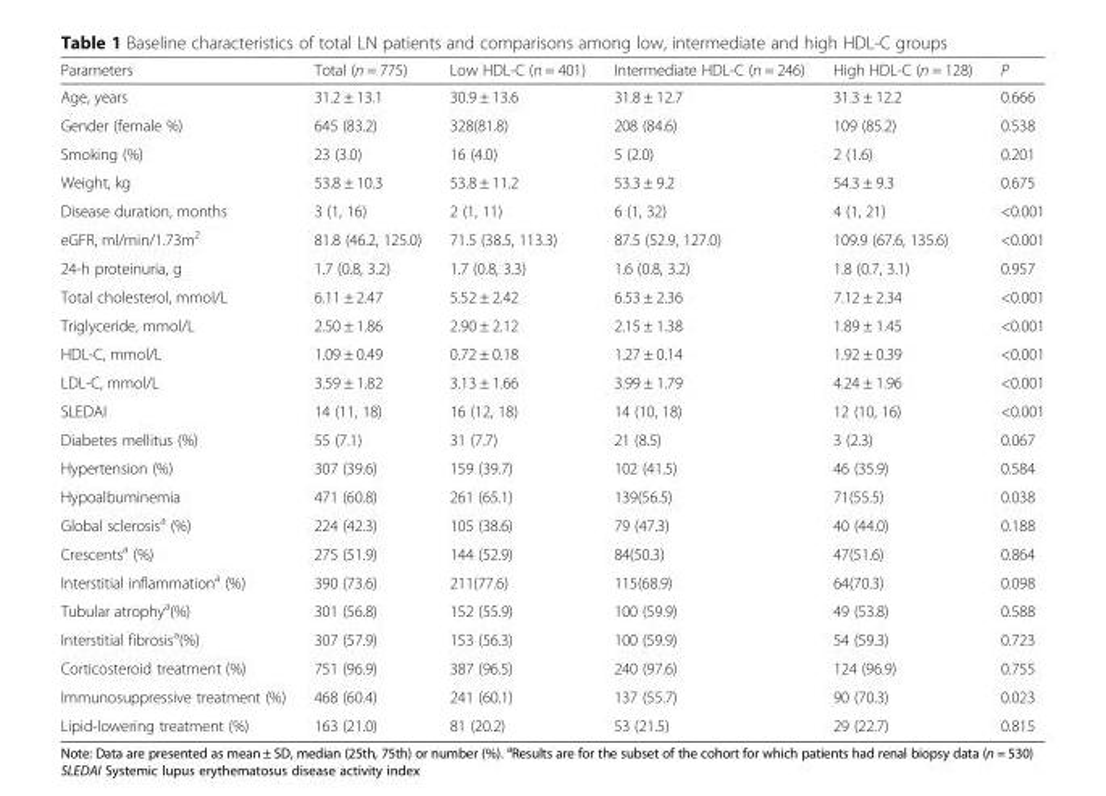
<table><thead><tr><td>Parameters</td><td>Total (n = 775)</td><td>Low HDL-C (n = 401)</td><td>Intermediate HDL-C (n = 246)</td><td>High HDL-C (n = 128)</td><td>P</td></tr></thead><tbody><tr><td>Age, years</td><td>31.2 ± 13.1</td><td>30.9 ± 13.6</td><td>31.8 ± 12.7</td><td>31.3 ± 12.2</td><td>0.666</td></tr><tr><td>Gender (female %)</td><td>645 (83.2)</td><td>328(81.8)</td><td>208 (84.6)</td><td>109 (85.2)</td><td>0.538</td></tr><tr><td>Smoking (%)</td><td>23 (3.0)</td><td>16 (4.0)</td><td>5 (2.0)</td><td>2 (1.6)</td><td>0.201</td></tr><tr><td>Weight, kg</td><td>53.8 ± 10.3</td><td>53.8 ± 11.2</td><td>53.3 ± 9.2</td><td>54.3 ± 9.3</td><td>0.675</td></tr><tr><td>Disease duration, months</td><td>3 (1, 16)</td><td>2 (1, 11)</td><td>6 (1, 32)</td><td>4 (1, 21)</td><td>&lt;0.001</td></tr><tr><td>eGFR, ml/min/1.73m<sup>2</sup></td><td>81.8 (46.2, 125.0)</td><td>71.5 (38.5, 113.3)</td><td>87.5 (52.9, 127.0)</td><td>109.9 (67.6, 135.6)</td><td>&lt;0.001</td></tr><tr><td>24-h proteinuria, g</td><td>1.7 (0.8, 3.2)</td><td>1.7 (0.8, 3.3)</td><td>1.6 (0.8, 3.2)</td><td>1.8 (0.7, 3.1)</td><td>0.957</td></tr><tr><td>Total cholesterol, mmol/L</td><td>6.11 ± 2.47</td><td>5.52 ± 2.42</td><td>6.53 ± 2.36</td><td>7.12 ± 2.34</td><td>&lt;0.001</td></tr><tr><td>Triglyceride, mmol/L</td><td>2.50 ± 1.86</td><td>2.90 ± 2.12</td><td>2.15 ± 1.38</td><td>1.89 ± 1.45</td><td>&lt;0.001</td></tr><tr><td>HDL-C, mmol/L</td><td>1.09 ± 0.49</td><td>0.72 ± 0.18</td><td>1.27 ± 0.14</td><td>1.92 ± 0.39</td><td>&lt;0.001</td></tr><tr><td>LDL-C, mmol/L</td><td>3.59 ± 1.82</td><td>3.13 ± 1.66</td><td>3.99 ± 1.79</td><td>4.24 ± 1.96</td><td>&lt;0.001</td></tr><tr><td>SLEDAI</td><td>14 (11, 18)</td><td>16 (12, 18)</td><td>14 (10, 18)</td><td>12 (10, 16)</td><td>&lt;0.001</td></tr><tr><td>Diabetes mellitus (%)</td><td>55 (7.1)</td><td>31 (7.7)</td><td>21 (8.5)</td><td>3 (2.3)</td><td>0.067</td></tr><tr><td>Hypertension (%)</td><td>307 (39.6)</td><td>159 (39.7)</td><td>102 (41.5)</td><td>46 (35.9)</td><td>0.584</td></tr><tr><td>Hypoalbuminemia</td><td>471 (60.8)</td><td>261 (65.1)</td><td>139(56.5)</td><td>71(55.5)</td><td>0.038</td></tr><tr><td>Global sclerosis<sup>a</sup> (%)</td><td>224 (42.3)</td><td>105 (38.6)</td><td>79 (47.3)</td><td>40 (44.0)</td><td>0.188</td></tr><tr><td>Crescents<sup>a</sup> (%)</td><td>275 (51.9)</td><td>144 (52.9)</td><td>84(50.3)</td><td>47(51.6)</td><td>0.864</td></tr><tr><td>Interstitial inflammation<sup>a</sup> (%)</td><td>390 (73.6)</td><td>211(77.6)</td><td>115(68.9)</td><td>64(70.3)</td><td>0.098</td></tr><tr><td>Tubular atrophy<sup>a</sup>(%)</td><td>301 (56.8)</td><td>152 (55.9)</td><td>100 (59.9)</td><td>49 (53.8)</td><td>0.588</td></tr><tr><td>Interstitial fibrosis<sup>a</sup>(%)</td><td>307 (57.9)</td><td>153 (56.3)</td><td>100 (59.9)</td><td>54 (59.3)</td><td>0.723</td></tr><tr><td>Corticosteroid treatment (%)</td><td>751 (96.9)</td><td>387 (96.5)</td><td>240 (97.6)</td><td>124 (96.9)</td><td>0.755</td></tr><tr><td>Immunosuppressive treatment (%)</td><td>468 (60.4)</td><td>241 (60.1)</td><td>137 (55.7)</td><td>90 (70.3)</td><td>0.023</td></tr><tr><td>Lipid-lowering treatment (%)</td><td>163 (21.0)</td><td>81 (20.2)</td><td>53 (21.5)</td><td>29 (22.7)</td><td>0.815</td></tr></tbody></table>